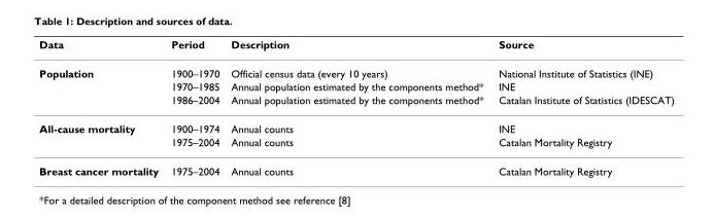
<table><thead><tr><td>Data</td><td>Period</td><td>Description</td><td>Source</td></tr></thead><tbody><tr><td rowspan="3">Population</td><td>1900–1970</td><td>Official census data (every 10 years)</td><td>National Institute of Statistics (INE)</td></tr><tr><td>1970–1985</td><td>Annual population estimated by the components method*</td><td>INE</td></tr><tr><td>1986–2004</td><td>Annual population estimated by the components method*</td><td>Catalan Institute of Statistics (IDESCAT)</td></tr><tr><td rowspan="2">All-cause mortality</td><td>1900–1974</td><td>Annual counts</td><td>INE</td></tr><tr><td>1975–2004</td><td>Annual counts</td><td>Catalan Mortality Registry</td></tr><tr><td>Breast cancer mortality</td><td>1975–2004</td><td>Annual counts</td><td>Catalan Mortality Registry</td></tr></tbody></table>